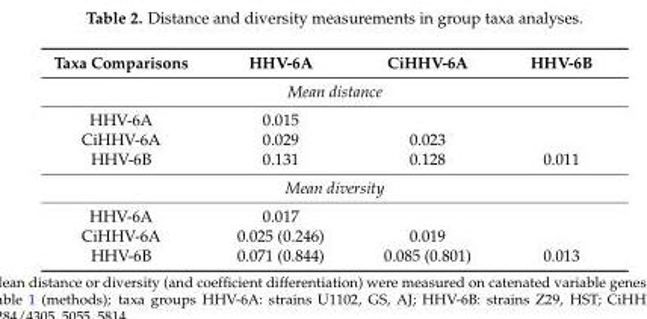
<table><thead><tr><td>Taxa Comparisons</td><td>HHV-6A</td><td>CiHHV-6A</td><td>HHV-6B</td></tr></thead><tbody><tr><td colspan="4">Mean distance</td></tr><tr><td>HHV-6A</td><td>0.015</td><td></td><td></td></tr><tr><td>CiHHV-6A</td><td>0.029</td><td>0.023</td><td></td></tr><tr><td>HHV-6B</td><td>0.131</td><td>0.128</td><td>0.011</td></tr><tr><td colspan="4">Mean diversity</td></tr><tr><td>HHV-6A</td><td>0.017</td><td></td><td></td></tr><tr><td>CiHHV-6A</td><td>0.025 (0.246)</td><td>0.019</td><td></td></tr><tr><td>HHV-6B</td><td>0.071 (0.844)</td><td>0.085 (0.801)</td><td>0.013</td></tr></tbody></table>